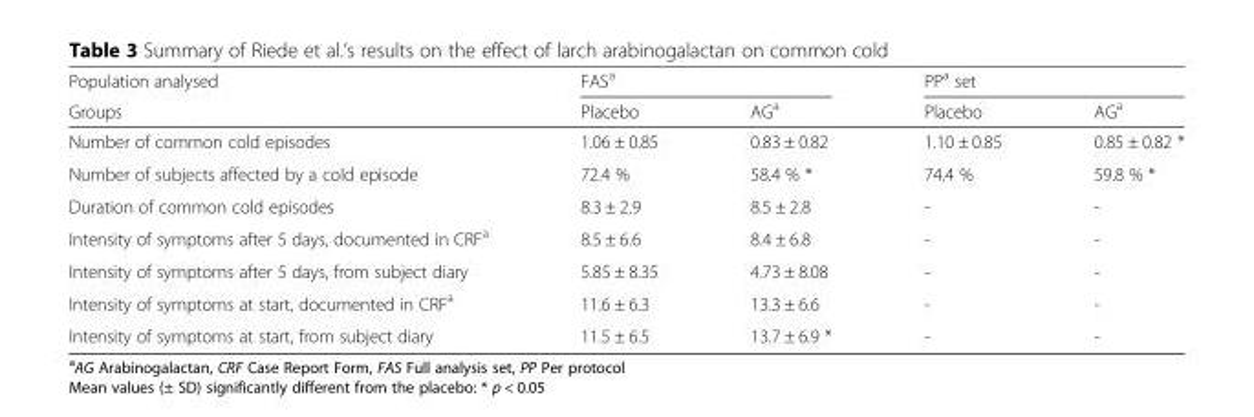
<table><thead><tr><td rowspan="2">Population analysed Groups</td><td colspan="2">FAS<sup>a</sup></td><td colspan="2">PP<sup>a</sup> set</td></tr><tr><td>Placebo</td><td>AG<sup>a</sup></td><td>Placebo</td><td>AG<sup>a</sup></td></tr></thead><tbody><tr><td>Number of common cold episodes</td><td>1.06 ± 0.85</td><td>0.83 ± 0.82</td><td>1.10 ± 0.85</td><td>0.85 ± 0.82 *</td></tr><tr><td>Number of subjects affected by a cold episode</td><td>72.4 %</td><td>58.4 % *</td><td>74.4 %</td><td>59.8 % *</td></tr><tr><td>Duration of common cold episodes</td><td>8.3 ± 2.9</td><td>8.5 ± 2.8</td><td>-</td><td>-</td></tr><tr><td>Intensity of symptoms after 5 days, documented in CRF<sup>a</sup></td><td>8.5 ± 6.6</td><td>8.4 ± 6.8</td><td>-</td><td>-</td></tr><tr><td>Intensity of symptoms after 5 days, from subject diary</td><td>5.85 ± 8.35</td><td>4.73 ± 8.08</td><td>-</td><td>-</td></tr><tr><td>Intensity of symptoms at start, documented in CRF<sup>a</sup></td><td>11.6 ± 6.3</td><td>13.3 ± 6.6</td><td>-</td><td>-</td></tr><tr><td>Intensity of symptoms at start, from subject diary</td><td>11.5 ± 6.5</td><td>13.7 ± 6.9 *</td><td>-</td><td>-</td></tr></tbody></table>